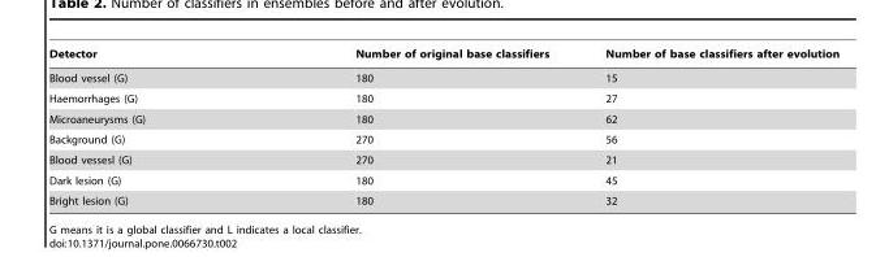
<table><thead><tr><td>Detector</td><td>Number of original base classifiers</td><td>Number of base classifiers after evolution</td></tr></thead><tbody><tr><td>Blood vessel (G)</td><td>180</td><td>15</td></tr><tr><td>Haemorrhages (G)</td><td>180</td><td>27</td></tr><tr><td>Microaneurysms (G)</td><td>180</td><td>62</td></tr><tr><td>Background (G)</td><td>270</td><td>56</td></tr><tr><td>Blood vessesl (G)</td><td>270</td><td>21</td></tr><tr><td>Dark lesion (G)</td><td>180</td><td>45</td></tr><tr><td>Bright lesion (G)</td><td>180</td><td>32</td></tr></tbody></table>